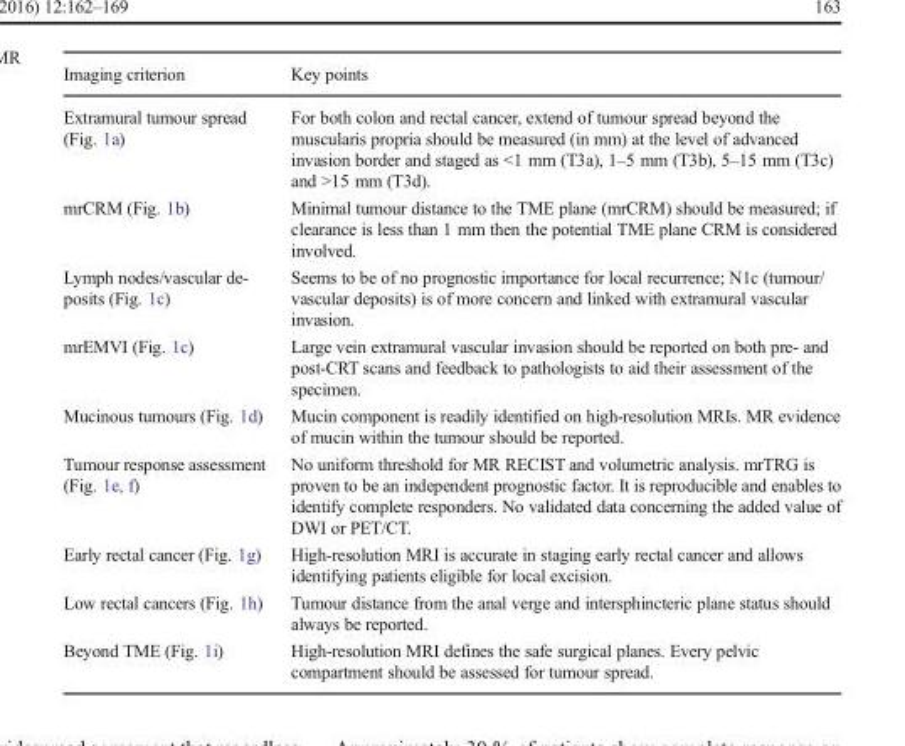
<table><thead><tr><td>Imaging criterion</td><td>Key points</td></tr></thead><tbody><tr><td>Extramural tumour spread (Fig. 1a)</td><td>For both colon and rectal cancer, extend of tumour spread beyond the muscularis propria should be measured (in mm) at the level of advanced invasion border and staged as &lt;1 mm (T3a), 1–5 mm (T3b), 5–15 mm (T3c) and &gt;15 mm (T3d).</td></tr><tr><td>mrCRM (Fig. 1b)</td><td>Minimal tumour distance to the TME plane (mrCRM) should be measured; if clearance is less than 1 mm then the potential TME plane CRM is considered involved.</td></tr><tr><td>Lymph nodes/vascular de- posits (Fig. 1c)</td><td>Seems to be of no prognostic importance for local recurrence; N1c (tumour/ vascular deposits) is of more concern and linked with extramural vascular invasion.</td></tr><tr><td>mrEMVI (Fig. 1c)</td><td>Large vein extramural vascular invasion should be reported on both pre- and post-CRT scans and feedback to pathologists to aid their assessment of the specimen.</td></tr><tr><td>Mucinous tumours (Fig. 1d)</td><td>Mucin component is readily identified on high-resolution MRIs. MR evidence of mucin within the tumour should be reported.</td></tr><tr><td>Tumour response assessment (Fig. 1e, f)</td><td>No uniform threshold for MR RECIST and volumetric analysis. mrTRG is proven to be an independent prognostic factor. It is reproducible and enables to identify complete responders. No validated data concerning the added value of DWI or PET/CT.</td></tr><tr><td>Early rectal cancer (Fig. 1g)</td><td>High-resolution MRI is accurate in staging early rectal cancer and allows identifying patients eligible for local excision.</td></tr><tr><td>Low rectal cancers (Fig. 1h)</td><td>Tumour distance from the anal verge and intersphincteric plane status should always be reported.</td></tr><tr><td>Beyond TME (Fig. 1i)</td><td>High-resolution MRI defines the safe surgical planes. Every pelvic compartment should be assessed for tumour spread.</td></tr></tbody></table>